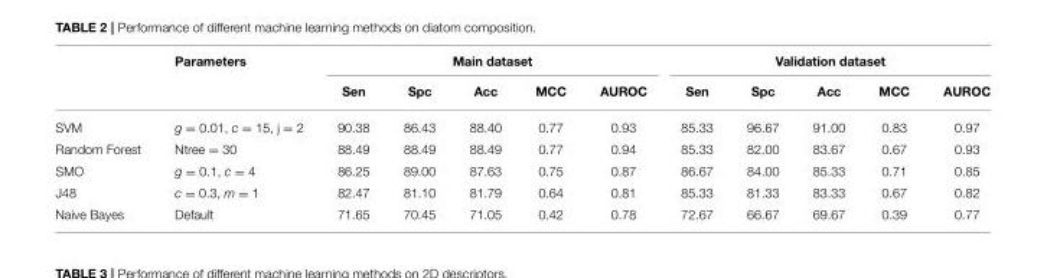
<table><thead><tr><td rowspan="2"></td><td rowspan="2">Parameters</td><td colspan="5">Main dataset</td><td colspan="5">Validation dataset</td></tr><tr><td>Sen</td><td>Spc</td><td>Acc</td><td>MCC</td><td>AUROC</td><td>Sen</td><td>Spc</td><td>Acc</td><td>MCC</td><td>AUROC</td></tr></thead><tbody><tr><td>SVM</td><td>g = 0.01, c = 15, j = 2</td><td>90.38</td><td>86.43</td><td>88.40</td><td>0.77</td><td>0.93</td><td>85.33</td><td>96.67</td><td>91.00</td><td>0.83</td><td>0.97</td></tr><tr><td>Random Forest</td><td>Ntree = 30</td><td>88.49</td><td>88.49</td><td>88.49</td><td>0.77</td><td>0.94</td><td>85.33</td><td>82.00</td><td>83.67</td><td>0.67</td><td>0.93</td></tr><tr><td>SMO</td><td>g = 0.1, c = 4</td><td>86.25</td><td>89.00</td><td>87.63</td><td>0.75</td><td>0.87</td><td>86.67</td><td>84.00</td><td>85.33</td><td>0.71</td><td>0.85</td></tr><tr><td>J48</td><td>c = 0.3, m = 1</td><td>82.47</td><td>81.10</td><td>81.79</td><td>0.64</td><td>0.81</td><td>85.33</td><td>81.33</td><td>83.33</td><td>0.67</td><td>0.82</td></tr><tr><td>Naive Bayes</td><td>Default</td><td>71.65</td><td>70.45</td><td>71.05</td><td>0.42</td><td>0.78</td><td>72.67</td><td>66.67</td><td>69.67</td><td>0.39</td><td>0.77</td></tr></tbody></table>